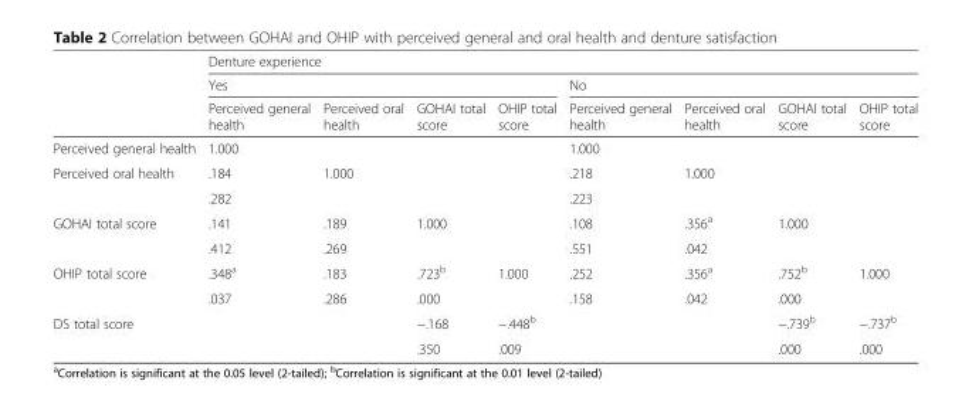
<table><thead><tr><td rowspan="3"></td><td colspan="8">Denture experience</td></tr><tr><td colspan="4">Yes</td><td colspan="4">No</td></tr><tr><td>Perceived general health</td><td>Perceived oral health</td><td>GOHAI total score</td><td>OHIP total score</td><td>Perceived general health</td><td>Perceived oral health</td><td>GOHAI total score</td><td>OHIP total score</td></tr></thead><tbody><tr><td>Perceived general health</td><td>1.000</td><td></td><td></td><td></td><td>1.000</td><td></td><td></td><td></td></tr><tr><td rowspan="2">Perceived oral health</td><td>.184</td><td>1.000</td><td></td><td></td><td>.218</td><td>1.000</td><td></td><td></td></tr><tr><td>.282</td><td></td><td></td><td></td><td>.223</td><td></td><td></td><td></td></tr><tr><td rowspan="2">GOHAI total score</td><td>.141</td><td>.189</td><td>1.000</td><td></td><td>.108</td><td>.356<sup>a</sup></td><td>1.000</td><td></td></tr><tr><td>.412</td><td>.269</td><td></td><td></td><td>.551</td><td>.042</td><td></td><td></td></tr><tr><td rowspan="2">OHIP total score</td><td>.348<sup>a</sup></td><td>.183</td><td>.723<sup>b</sup></td><td>1.000</td><td>.252</td><td>.356<sup>a</sup></td><td>.752<sup>b</sup></td><td>1.000</td></tr><tr><td>.037</td><td>.286</td><td>.000</td><td></td><td>.158</td><td>.042</td><td>.000</td><td></td></tr><tr><td rowspan="2">DS total score</td><td></td><td></td><td>−.168</td><td>−.448<sup>b</sup></td><td></td><td></td><td>−.739<sup>b</sup></td><td>−.737<sup>b</sup></td></tr><tr><td></td><td></td><td>.350</td><td>.009</td><td></td><td></td><td>.000</td><td>.000</td></tr></tbody></table>